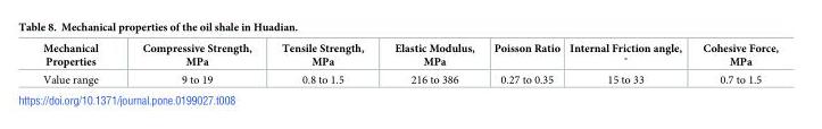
<table><thead><tr><td>Mechanical Properties</td><td>Compressive Strength, MPa</td><td>Tensile Strength, MPa</td><td>Elastic Modulus, MPa</td><td>Poisson Ratio</td><td>Internal Friction angle, ˚</td><td>Cohesive Force, MPa</td></tr></thead><tbody><tr><td>Value range</td><td>9 to 19</td><td>0.8 to 1.5</td><td>216 to 386</td><td>0.27 to 0.35</td><td>15 to 33</td><td>0.7 to 1.5</td></tr></tbody></table>